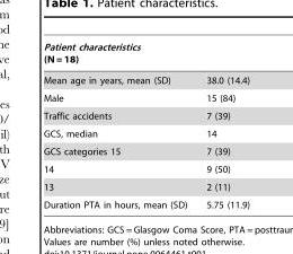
<table><thead><tr><td colspan="2">Patient characteristics (N = 18)</td></tr><tr><td>Mean age in years, mean (SD)</td><td>38.0 (14.4)</td></tr></thead><tbody><tr><td>Male</td><td>15 (84)</td></tr><tr><td>Traffic accidents</td><td>7 (39)</td></tr><tr><td>GCS, median</td><td>14</td></tr><tr><td>GCS categories 15</td><td>7 (39)</td></tr><tr><td>14</td><td>9 (50)</td></tr><tr><td>13</td><td>2 (11)</td></tr><tr><td>Duration PTA in hours, mean (SD)</td><td>5.75 (11.9)</td></tr></tbody></table>